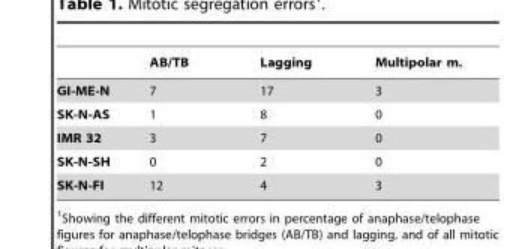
<table><thead><tr><td></td><td>AB/TB</td><td>Lagging</td><td>Multipolar m.</td></tr></thead><tbody><tr><td>GI-ME-N</td><td>7</td><td>17</td><td>3</td></tr><tr><td>SK-N-AS</td><td>1</td><td>8</td><td>0</td></tr><tr><td>IMR 32</td><td>3</td><td>7</td><td>0</td></tr><tr><td>SK-N-SH</td><td>0</td><td>2</td><td>0</td></tr><tr><td>SK-N-FI</td><td>12</td><td>4</td><td>3</td></tr></tbody></table>